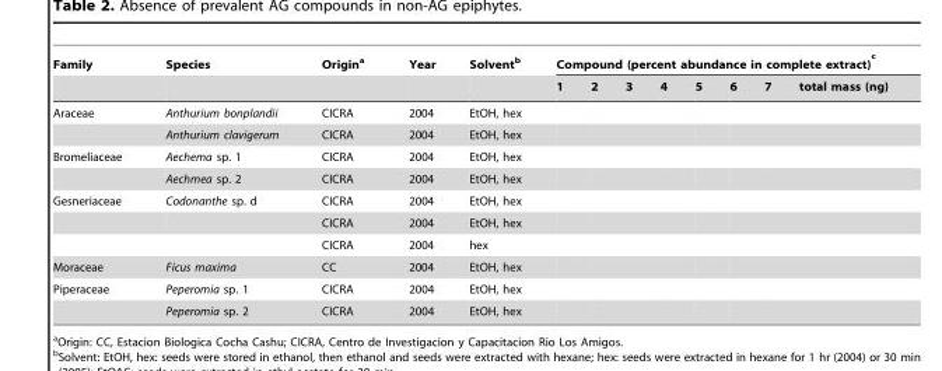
<table><thead><tr><td rowspan="2">Family</td><td rowspan="2">Species</td><td rowspan="2">Origin<sup>a</sup></td><td rowspan="2">Year</td><td rowspan="2">Solvent<sup>b</sup></td><td colspan="8">Compound (percent abundance in complete extract) <sup>c</sup></td></tr><tr><td>1</td><td>2</td><td>3</td><td>4</td><td>5</td><td>6</td><td>7</td><td>total mass (ng)</td></tr></thead><tbody><tr><td rowspan="2">Araceae</td><td>Anthurium bonplandii</td><td>CICRA</td><td>2004</td><td>EtOH, hex</td><td></td><td></td><td></td><td></td><td></td><td></td><td></td><td></td></tr><tr><td>Anthurium clavigerum</td><td>CICRA</td><td>2004</td><td>EtOH, hex</td><td></td><td></td><td></td><td></td><td></td><td></td><td></td><td></td></tr><tr><td rowspan="2">Bromeliaceae</td><td>Aechema sp. 1</td><td>CICRA</td><td>2004</td><td>EtOH, hex</td><td></td><td></td><td></td><td></td><td></td><td></td><td></td><td></td></tr><tr><td>Aechmea sp. 2</td><td>CICRA</td><td>2004</td><td>EtOH, hex</td><td></td><td></td><td></td><td></td><td></td><td></td><td></td><td></td></tr><tr><td rowspan="3">Gesneriaceae</td><td>Codonanthe sp. d</td><td>CICRA</td><td>2004</td><td>EtOH, hex</td><td></td><td></td><td></td><td></td><td></td><td></td><td></td><td></td></tr><tr><td></td><td>CICRA</td><td>2004</td><td>EtOH, hex</td><td></td><td></td><td></td><td></td><td></td><td></td><td></td><td></td></tr><tr><td></td><td>CICRA</td><td>2004</td><td>hex</td><td></td><td></td><td></td><td></td><td></td><td></td><td></td><td></td></tr><tr><td>Moraceae</td><td>Ficus maxima</td><td>CC</td><td>2004</td><td>EtOH, hex</td><td></td><td></td><td></td><td></td><td></td><td></td><td></td><td></td></tr><tr><td rowspan="2">Piperaceae</td><td>Peperomia sp. 1</td><td>CICRA</td><td>2004</td><td>EtOH, hex</td><td></td><td></td><td></td><td></td><td></td><td></td><td></td><td></td></tr><tr><td>Peperomia sp. 2</td><td>CICRA</td><td>2004</td><td>EtOH, hex</td><td></td><td></td><td></td><td></td><td></td><td></td><td></td><td></td></tr></tbody></table>